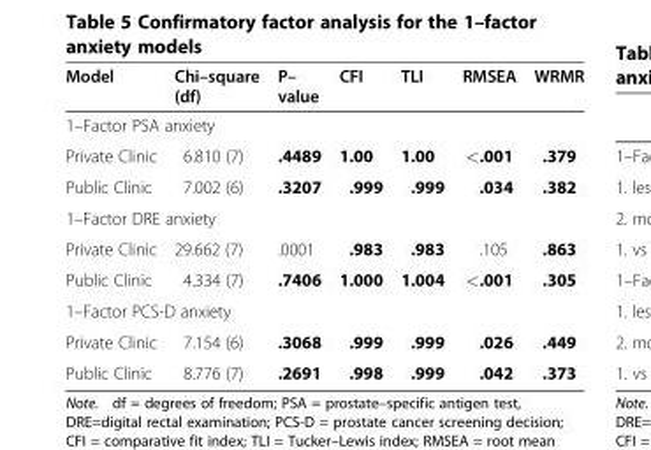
<table><thead><tr><td>Model</td><td>Chi–square (df)</td><td>P– value</td><td>CFI</td><td>TLI</td><td>RMSEA</td><td>WRMR</td></tr></thead><tbody><tr><td colspan="7">1–Factor PSA anxiety</td></tr><tr><td>Private Clinic</td><td>6.810 (7)</td><td>.4489</td><td>1.00</td><td>1.00</td><td>&lt;.001</td><td>.379</td></tr><tr><td>Public Clinic</td><td>7.002 (6)</td><td>.3207</td><td>.999</td><td>.999</td><td>.034</td><td>.382</td></tr><tr><td colspan="7">1–Factor DRE anxiety</td></tr><tr><td>Private Clinic</td><td>29.662 (7)</td><td>.0001</td><td>.983</td><td>.983</td><td>.105</td><td>.863</td></tr><tr><td>Public Clinic</td><td>4.334 (7)</td><td>.7406</td><td>1.000</td><td>1.004</td><td>&lt;.001</td><td>.305</td></tr><tr><td colspan="7">1–Factor PCS-D anxiety</td></tr><tr><td>Private Clinic</td><td>7.154 (6)</td><td>.3068</td><td>.999</td><td>.999</td><td>.026</td><td>.449</td></tr><tr><td>Public Clinic</td><td>8.776 (7)</td><td>.2691</td><td>.998</td><td>.999</td><td>.042</td><td>.373</td></tr></tbody></table>